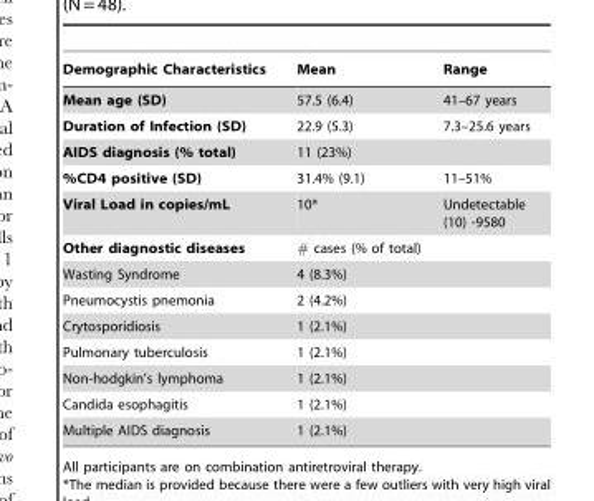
<table><thead><tr><td>Demographic Characteristics</td><td>Mean</td><td>Range</td></tr></thead><tbody><tr><td>Mean age (SD)</td><td>57.5 (6.4)</td><td>41–67 years</td></tr><tr><td>Duration of Infection (SD)</td><td>22.9 (5.3)</td><td>7.3–25.6 years</td></tr><tr><td>AIDS diagnosis (% total)</td><td>11 (23%)</td><td></td></tr><tr><td>%CD4 positive (SD)</td><td>31.4% (9.1)</td><td>11–51%</td></tr><tr><td>Viral Load in copies/mL</td><td>10*</td><td>Undetectable (10) -9580</td></tr><tr><td>Other diagnostic diseases</td><td># cases (% of total)</td><td></td></tr><tr><td>Wasting Syndrome</td><td>4 (8.3%)</td><td></td></tr><tr><td>Pneumocystis pnemonia</td><td>2 (4.2%)</td><td></td></tr><tr><td>Crytosporidiosis</td><td>1 (2.1%)</td><td></td></tr><tr><td>Pulmonary tuberculosis</td><td>1 (2.1%)</td><td></td></tr><tr><td>Non-hodgkin’s lymphoma</td><td>1 (2.1%)</td><td></td></tr><tr><td>Candida esophagitis</td><td>1 (2.1%)</td><td></td></tr><tr><td>Multiple AIDS diagnosis</td><td>1 (2.1%)</td><td></td></tr></tbody></table>